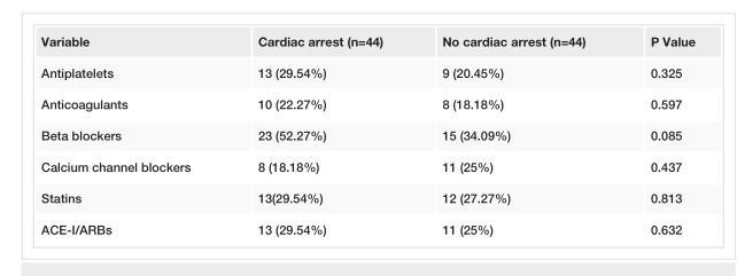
<table><tbody><tr><td>Variable</td><td>Cardiac arrest (n=44)</td><td>No cardiac arrest (n=44)</td><td>P Value</td></tr><tr><td>Antiplatelets</td><td>13 (29.54%)</td><td>9 (20.45%)</td><td>0.325</td></tr><tr><td>Anticoagulants</td><td>10 (22.27%)</td><td>8 (18.18%)</td><td>0.597</td></tr><tr><td>Beta blockers</td><td>23 (52.27%)</td><td>15 (34.09%)</td><td>0.085</td></tr><tr><td>Calcium channel blockers</td><td>8 (18.18%)</td><td>11 (25%)</td><td>0.437</td></tr><tr><td>Statins</td><td>13(29.54%)</td><td>12 (27.27%)</td><td>0.813</td></tr><tr><td>ACE-I/ARBs</td><td>13 (29.54%)</td><td>11 (25%)</td><td>0.632</td></tr></tbody></table>